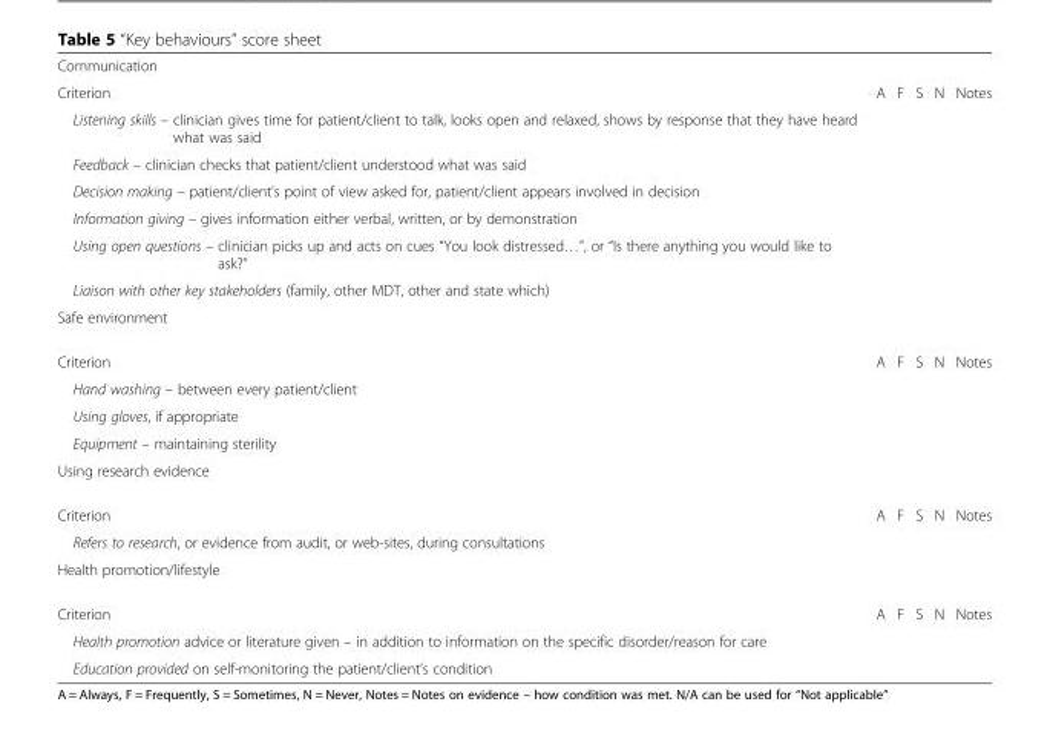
<table><tbody><tr><td colspan="6">Communication</td></tr><tr><td>Criterion</td><td>A</td><td>F</td><td>S</td><td>N</td><td>Notes</td></tr><tr><td colspan="6">Listening skills – clinician gives time for patient/client to talk, looks open and relaxed, shows by response that they have heard what was said</td></tr><tr><td colspan="6">Feedback – clinician checks that patient/client understood what was said</td></tr><tr><td colspan="6">Decision making – patient/client’s point of view asked for, patient/client appears involved in decision</td></tr><tr><td colspan="6">Information giving – gives information either verbal, written, or by demonstration</td></tr><tr><td colspan="6">Using open questions – clinician picks up and acts on cues “You look distressed…”, or “Is there anything you would like to ask?”</td></tr><tr><td colspan="6">Liaison with other key stakeholders (family, other MDT, other and state which)</td></tr><tr><td colspan="6">Safe environment</td></tr><tr><td>Criterion</td><td>A</td><td>F</td><td>S</td><td>N</td><td>Notes</td></tr><tr><td colspan="6">Hand washing – between every patient/client</td></tr><tr><td colspan="6">Using gloves, if appropriate</td></tr><tr><td colspan="6">Equipment – maintaining sterility</td></tr><tr><td colspan="6">Using research evidence</td></tr><tr><td>Criterion</td><td>A</td><td>F</td><td>S</td><td>N</td><td>Notes</td></tr><tr><td colspan="6">Refers to research, or evidence from audit, or web-sites, during consultations</td></tr><tr><td colspan="6">Health promotion/lifestyle</td></tr><tr><td>Criterion</td><td>A</td><td>F</td><td>S</td><td>N</td><td>Notes</td></tr><tr><td colspan="6">Health promotion advice or literature given – in addition to information on the specific disorder/reason for care</td></tr><tr><td>Education provided on self-monitoring the patient/client’s condition</td><td></td><td></td><td></td><td></td><td></td></tr></tbody></table>